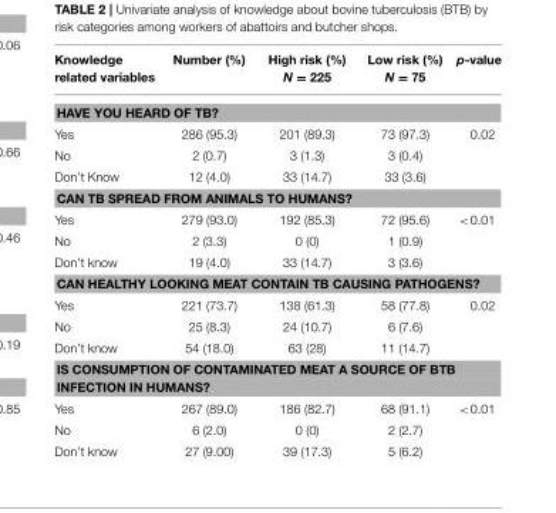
<table><thead><tr><td>Knowledge related variables</td><td>Number (%)</td><td>High risk (%) N = 225</td><td>Low risk (%) N = 75</td><td>p-value</td></tr></thead><tbody><tr><td colspan="5">HAVE YOU HEARD OF TB?</td></tr><tr><td>Yes</td><td>286 (95.3)</td><td>201 (89.3)</td><td>73 (97.3)</td><td>0.02</td></tr><tr><td>No</td><td>2 (0.7)</td><td>3 (1.3)</td><td>3 (0.4)</td><td></td></tr><tr><td>Don’t Know</td><td>12 (4.0)</td><td>33 (14.7)</td><td>33 (3.6)</td><td></td></tr><tr><td colspan="5">CAN TB SPREAD FROM ANIMALS TO HUMANS?</td></tr><tr><td>Yes</td><td>279 (93.0)</td><td>192 (85.3)</td><td>72 (95.6)</td><td>&lt;0.01</td></tr><tr><td>No</td><td>2 (3.3)</td><td>0 (0)</td><td>1 (0.9)</td><td></td></tr><tr><td>Don’t know</td><td>19 (4.0)</td><td>33 (14.7)</td><td>3 (3.6)</td><td></td></tr><tr><td colspan="5">CAN HEALTHY LOOKING MEAT CONTAIN TB CAUSING PATHOGENS?</td></tr><tr><td>Yes</td><td>221 (73.7)</td><td>138 (61.3)</td><td>58 (77.8)</td><td>0.02</td></tr><tr><td>No</td><td>25 (8.3)</td><td>24 (10.7)</td><td>6 (7.6)</td><td></td></tr><tr><td>Don’t know</td><td>54 (18.0)</td><td>63 (28)</td><td>11 (14.7)</td><td></td></tr><tr><td colspan="5">IS CONSUMPTION OF CONTAMINATED MEAT A SOURCE OF BTB INFECTION IN HUMANS?</td></tr><tr><td>Yes</td><td>267 (89.0)</td><td>186 (82.7)</td><td>68 (91.1)</td><td>&lt;0.01</td></tr><tr><td>No</td><td>6 (2.0)</td><td>0 (0)</td><td>2 (2.7)</td><td></td></tr><tr><td>Don’t know</td><td>27 (9.00)</td><td>39 (17.3)</td><td>5 (6.2)</td><td></td></tr></tbody></table>